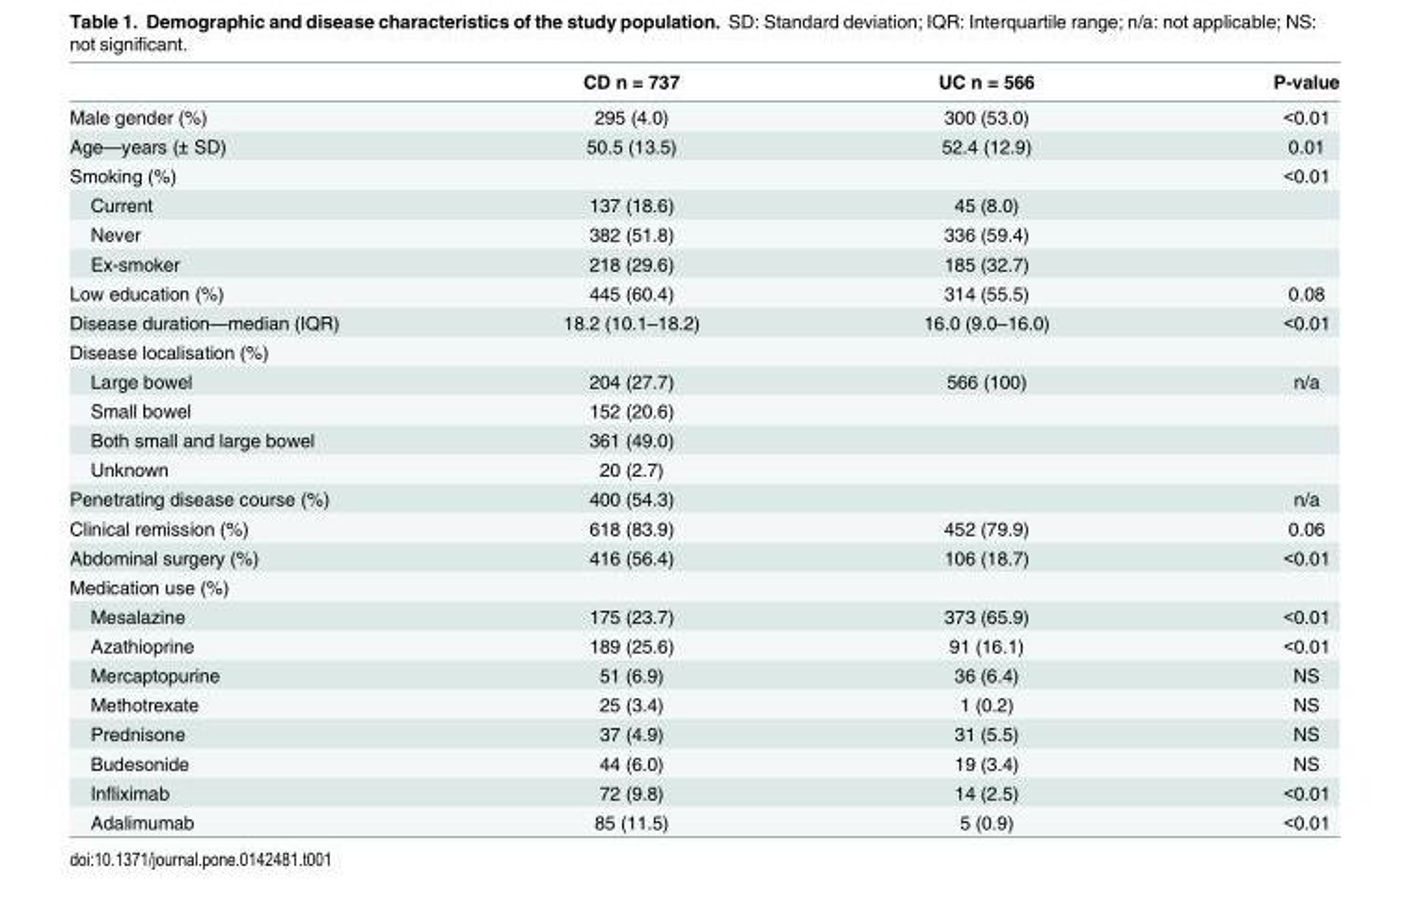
<table><thead><tr><td></td><td>CD n = 737</td><td>UC n = 566</td><td>P-value</td></tr></thead><tbody><tr><td>Male gender (%)</td><td>295 (4.0)</td><td>300 (53.0)</td><td>&lt;0.01</td></tr><tr><td>Age—years (± SD)</td><td>50.5 (13.5)</td><td>52.4 (12.9)</td><td>0.01</td></tr><tr><td>Smoking (%)</td><td></td><td></td><td>&lt;0.01</td></tr><tr><td>Current</td><td>137 (18.6)</td><td>45 (8.0)</td><td></td></tr><tr><td>Never</td><td>382 (51.8)</td><td>336 (59.4)</td><td></td></tr><tr><td>Ex-smoker</td><td>218 (29.6)</td><td>185 (32.7)</td><td></td></tr><tr><td>Low education (%)</td><td>445 (60.4)</td><td>314 (55.5)</td><td>0.08</td></tr><tr><td>Disease duration—median (IQR)</td><td>18.2 (10.1–18.2)</td><td>16.0 (9.0–16.0)</td><td>&lt;0.01</td></tr><tr><td colspan="4">Disease localisation (%)</td></tr><tr><td>Large bowel</td><td>204 (27.7)</td><td>566 (100)</td><td>n/a</td></tr><tr><td>Small bowel</td><td>152 (20.6)</td><td></td><td></td></tr><tr><td>Both small and large bowel</td><td>361 (49.0)</td><td></td><td></td></tr><tr><td>Unknown</td><td>20 (2.7)</td><td></td><td></td></tr><tr><td>Penetrating disease course (%)</td><td>400 (54.3)</td><td></td><td>n/a</td></tr><tr><td>Clinical remission (%)</td><td>618 (83.9)</td><td>452 (79.9)</td><td>0.06</td></tr><tr><td>Abdominal surgery (%)</td><td>416 (56.4)</td><td>106 (18.7)</td><td>&lt;0.01</td></tr><tr><td colspan="4">Medication use (%)</td></tr><tr><td>Mesalazine</td><td>175 (23.7)</td><td>373 (65.9)</td><td>&lt;0.01</td></tr><tr><td>Azathioprine</td><td>189 (25.6)</td><td>91 (16.1)</td><td>&lt;0.01</td></tr><tr><td>Mercaptopurine</td><td>51 (6.9)</td><td>36 (6.4)</td><td>NS</td></tr><tr><td>Methotrexate</td><td>25 (3.4)</td><td>1 (0.2)</td><td>NS</td></tr><tr><td>Prednisone</td><td>37 (4.9)</td><td>31 (5.5)</td><td>NS</td></tr><tr><td>Budesonide</td><td>44 (6.0)</td><td>19 (3.4)</td><td>NS</td></tr><tr><td>Infliximab</td><td>72 (9.8)</td><td>14 (2.5)</td><td>&lt;0.01</td></tr><tr><td>Adalimumab</td><td>85 (11.5)</td><td>5 (0.9)</td><td>&lt;0.01</td></tr></tbody></table>